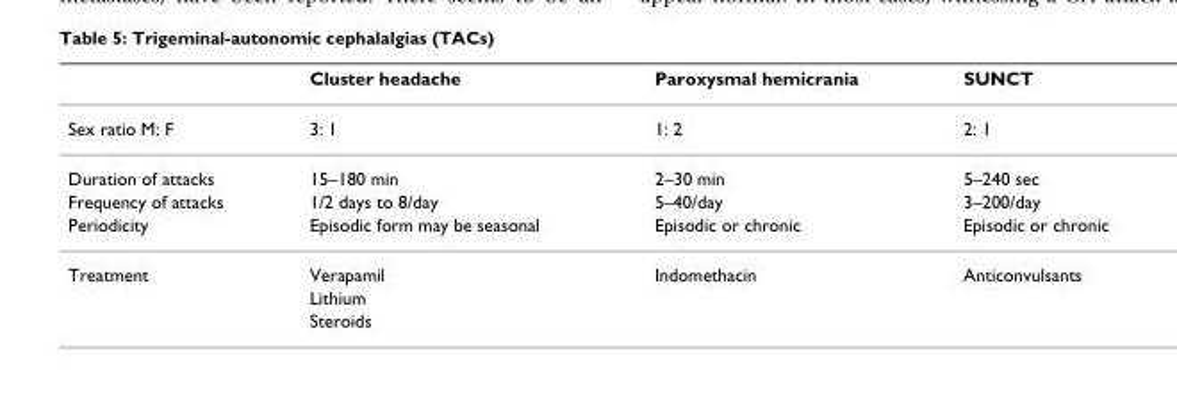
<table><thead><tr><td></td><td>Cluster headache</td><td>Paroxysmal hemicrania</td><td>SUNCT</td></tr></thead><tbody><tr><td>Sex ratio M: F</td><td>3: 1</td><td>1: 2</td><td>2: 1</td></tr><tr><td>Duration of attacks</td><td>15–180 min</td><td>2–30 min</td><td>5–240 sec</td></tr><tr><td>Frequency of attacks</td><td>1/2 days to 8/day</td><td>5–40/day</td><td>3–200/day</td></tr><tr><td>Periodicity</td><td>Episodic form may be seasonal</td><td>Episodic or chronic</td><td>Episodic or chronic</td></tr><tr><td rowspan="3">Treatment</td><td>Verapamil</td><td>Indomethacin</td><td>Anticonvulsants</td></tr><tr><td>Lithium</td><td></td><td></td></tr><tr><td>Steroids</td><td></td><td></td></tr></tbody></table>